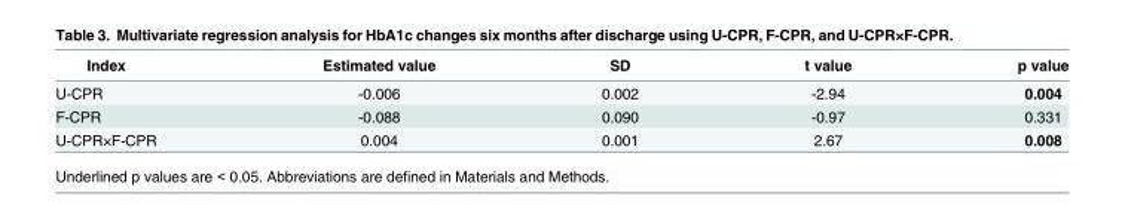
<table><thead><tr><td>Index</td><td>Estimated value</td><td>SD</td><td>t value</td><td>p value</td></tr></thead><tbody><tr><td>U-CPR</td><td>-0.006</td><td>0.002</td><td>-2.94</td><td>0.004</td></tr><tr><td>F-CPR</td><td>-0.088</td><td>0.090</td><td>-0.97</td><td>0.331</td></tr><tr><td>U-CPR×F-CPR</td><td>0.004</td><td>0.001</td><td>2.67</td><td>0.008</td></tr></tbody></table>